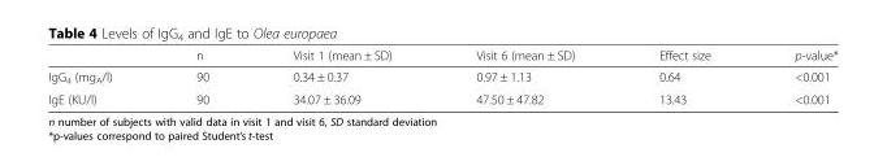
<table><thead><tr><td></td><td>n</td><td>Visit 1 (mean ± SD)</td><td>Visit 6 (mean ± SD)</td><td>Effect size</td><td>p-value*</td></tr></thead><tbody><tr><td>IgG<sub>4</sub> (mg<sub>A</sub>/l)</td><td>90</td><td>0.34 ± 0.37</td><td>0.97 ± 1.13</td><td>0.64</td><td>&lt;0.001</td></tr><tr><td>IgE (KU/l)</td><td>90</td><td>34.07 ± 36.09</td><td>47.50 ± 47.82</td><td>13.43</td><td>&lt;0.001</td></tr></tbody></table>